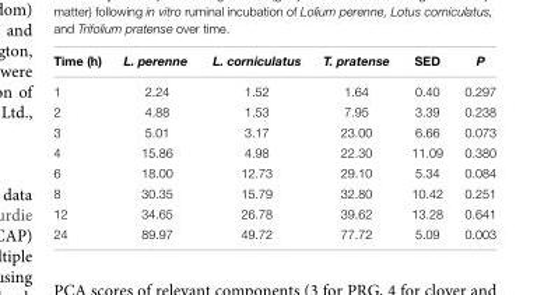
<table><thead><tr><td>Time (h)</td><td>L. perenne</td><td>L. corniculatus</td><td>T. pratense</td><td>SED</td><td>P</td></tr></thead><tbody><tr><td>1</td><td>2.24</td><td>1.52</td><td>1.64</td><td>0.40</td><td>0.297</td></tr><tr><td>2</td><td>4.88</td><td>1.53</td><td>7.95</td><td>3.39</td><td>0.238</td></tr><tr><td>3</td><td>5.01</td><td>3.17</td><td>23.00</td><td>6.66</td><td>0.073</td></tr><tr><td>4</td><td>15.86</td><td>4.98</td><td>22.30</td><td>11.09</td><td>0.380</td></tr><tr><td>6</td><td>18.00</td><td>12.73</td><td>29.10</td><td>5.34</td><td>0.084</td></tr><tr><td>8</td><td>30.35</td><td>15.79</td><td>32.80</td><td>10.42</td><td>0.251</td></tr><tr><td>12</td><td>34.65</td><td>26.78</td><td>39.62</td><td>13.28</td><td>0.641</td></tr><tr><td>24</td><td>89.97</td><td>49.72</td><td>77.72</td><td>5.09</td><td>0.003</td></tr></tbody></table>